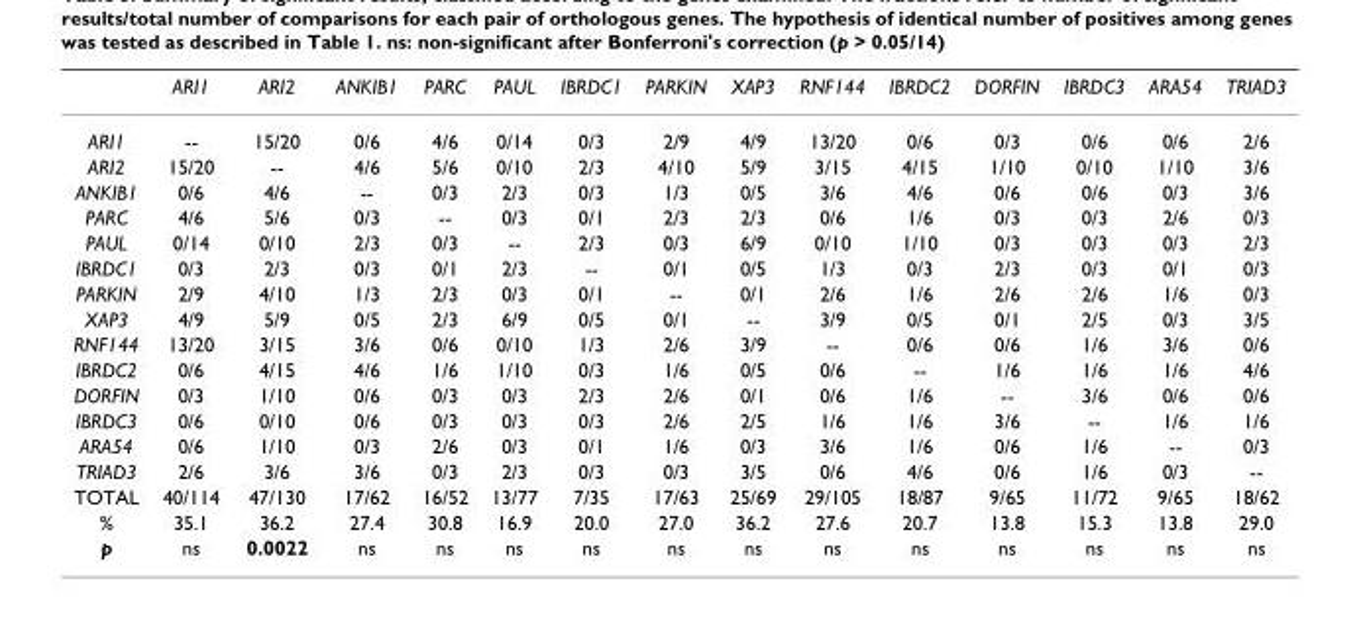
<table><thead><tr><td></td><td>ARI1</td><td>ARI2</td><td>ANKIB1</td><td>PARC</td><td>PAUL</td><td>IBRDC1</td><td>PARKIN</td><td>XAP3</td><td>RNF144</td><td>IBRDC2</td><td>DORFIN</td><td>IBRDC3</td><td>ARA54</td><td>TRIAD3</td></tr></thead><tbody><tr><td>ARI1</td><td>--</td><td>15/20</td><td>0/6</td><td>4/6</td><td>0/14</td><td>0/3</td><td>2/9</td><td>4/9</td><td>13/20</td><td>0/6</td><td>0/3</td><td>0/6</td><td>0/6</td><td>2/6</td></tr><tr><td>ARI2</td><td>15/20</td><td>--</td><td>4/6</td><td>5/6</td><td>0/10</td><td>2/3</td><td>4/10</td><td>5/9</td><td>3/15</td><td>4/15</td><td>1/10</td><td>0/10</td><td>1/10</td><td>3/6</td></tr><tr><td>ANKIB1</td><td>0/6</td><td>4/6</td><td>--</td><td>0/3</td><td>2/3</td><td>0/3</td><td>1/3</td><td>0/5</td><td>3/6</td><td>4/6</td><td>0/6</td><td>0/6</td><td>0/3</td><td>3/6</td></tr><tr><td>PARC</td><td>4/6</td><td>5/6</td><td>0/3</td><td>--</td><td>0/3</td><td>0/1</td><td>2/3</td><td>2/3</td><td>0/6</td><td>1/6</td><td>0/3</td><td>0/3</td><td>2/6</td><td>0/3</td></tr><tr><td>PAUL</td><td>0/14</td><td>0/10</td><td>2/3</td><td>0/3</td><td>--</td><td>2/3</td><td>0/3</td><td>6/9</td><td>0/10</td><td>1/10</td><td>0/3</td><td>0/3</td><td>0/3</td><td>2/3</td></tr><tr><td>IBRDC1</td><td>0/3</td><td>2/3</td><td>0/3</td><td>0/1</td><td>2/3</td><td>--</td><td>0/1</td><td>0/5</td><td>1/3</td><td>0/3</td><td>2/3</td><td>0/3</td><td>0/1</td><td>0/3</td></tr><tr><td>PARKIN</td><td>2/9</td><td>4/10</td><td>1/3</td><td>2/3</td><td>0/3</td><td>0/1</td><td>--</td><td>0/1</td><td>2/6</td><td>1/6</td><td>2/6</td><td>2/6</td><td>1/6</td><td>0/3</td></tr><tr><td>XAP3</td><td>4/9</td><td>5/9</td><td>0/5</td><td>2/3</td><td>6/9</td><td>0/5</td><td>0/1</td><td>--</td><td>3/9</td><td>0/5</td><td>0/1</td><td>2/5</td><td>0/3</td><td>3/5</td></tr><tr><td>RNF144</td><td>13/20</td><td>3/15</td><td>3/6</td><td>0/6</td><td>0/10</td><td>1/3</td><td>2/6</td><td>3/9</td><td>--</td><td>0/6</td><td>0/6</td><td>1/6</td><td>3/6</td><td>0/6</td></tr><tr><td>IBRDC2</td><td>0/6</td><td>4/15</td><td>4/6</td><td>1/6</td><td>1/10</td><td>0/3</td><td>1/6</td><td>0/5</td><td>0/6</td><td>--</td><td>1/6</td><td>1/6</td><td>1/6</td><td>4/6</td></tr><tr><td>DORFIN</td><td>0/3</td><td>1/10</td><td>0/6</td><td>0/3</td><td>0/3</td><td>2/3</td><td>2/6</td><td>0/1</td><td>0/6</td><td>1/6</td><td>--</td><td>3/6</td><td>0/6</td><td>0/6</td></tr><tr><td>IBRDC3</td><td>0/6</td><td>0/10</td><td>0/6</td><td>0/3</td><td>0/3</td><td>0/3</td><td>2/6</td><td>2/5</td><td>1/6</td><td>1/6</td><td>3/6</td><td>--</td><td>1/6</td><td>1/6</td></tr><tr><td>ARA54</td><td>0/6</td><td>1/10</td><td>0/3</td><td>2/6</td><td>0/3</td><td>0/1</td><td>1/6</td><td>0/3</td><td>3/6</td><td>1/6</td><td>0/6</td><td>1/6</td><td>--</td><td>0/3</td></tr><tr><td>TRIAD3</td><td>2/6</td><td>3/6</td><td>3/6</td><td>0/3</td><td>2/3</td><td>0/3</td><td>0/3</td><td>3/5</td><td>0/6</td><td>4/6</td><td>0/6</td><td>1/6</td><td>0/3</td><td>--</td></tr><tr><td>TOTAL</td><td>40/114</td><td>47/130</td><td>17/62</td><td>16/52</td><td>13/77</td><td>7/35</td><td>17/63</td><td>25/69</td><td>29/105</td><td>18/87</td><td>9/65</td><td>11/72</td><td>9/65</td><td>18/62</td></tr><tr><td>%</td><td>35.1</td><td>36.2</td><td>27.4</td><td>30.8</td><td>16.9</td><td>20.0</td><td>27.0</td><td>36.2</td><td>27.6</td><td>20.7</td><td>13.8</td><td>15.3</td><td>13.8</td><td>29.0</td></tr><tr><td>p</td><td>ns</td><td>0.0022</td><td>ns</td><td>ns</td><td>ns</td><td>ns</td><td>ns</td><td>ns</td><td>ns</td><td>ns</td><td>ns</td><td>ns</td><td>ns</td><td>ns</td></tr></tbody></table>